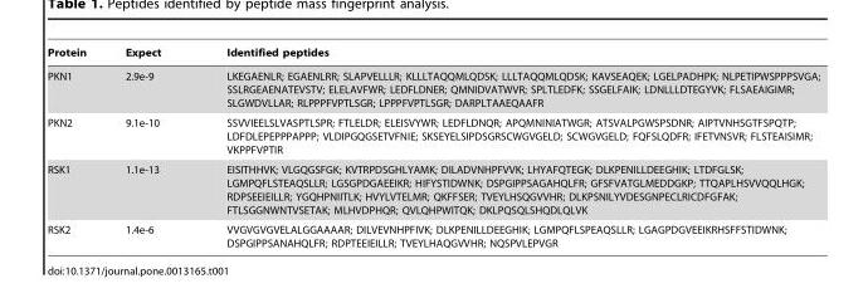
<table><thead><tr><td>Protein</td><td>Expect</td><td>Identified peptides</td></tr></thead><tbody><tr><td>PKN1</td><td>2.9e-9</td><td>LKEGAENLR; EGAENLRR; SLAPVELLLR; KLLLTAQQMLQDSK; LLLTAQQMLQDSK; KAVSEAQEK; LGELPADHPK; NLPETIPWSPPPSVGA; SSLRGEAENATEVSTV; ELELAVFWR; LEDFLDNER; QMNIDVATWVR; SPLTLEDFK; SSGELFAIK; LDNLLLDTEGYVK; FLSAEAIGIMR; SLGWDVLLAR; RLPPPFVPTLSGR; LPPPFVPTLSGR; DARPLTAAEQAAFR</td></tr><tr><td>PKN2</td><td>9.1e-10</td><td>SSVVIEELSLVASPTLSPR; FTLELDR; ELEISVYWR; LEDFLDNQR; APQMNINIATWGR; ATSVALPGWSPSDNR; AIPTVNHSGTFSPQTP; LDFDLEPEPPPAPPP; VLDIPGQGSETVFNIE; SKSEYELSIPDSGRSCWGVGELD; SCWGVGELD; FQFSLQDFR; IFETVNSVR; FLSTEAISIMR; VKPPFVPTIR</td></tr><tr><td>RSK1</td><td>1.1e-13</td><td>EISITHHVK; VLGQGSFGK; KVTRPDSGHLYAMK; DILADVNHPFVVK; LHYAFQTEGK; DLKPENILLDEEGHIK; LTDFGLSK; LGMPQFLSTEAQSLLR; LGSGPDGAEEIKR; HIFYSTIDWNK; DSPGIPPSAGAHQLFR; GFSFVATGLMEDDGKP; TTQAPLHSVVQQLHGK; RDPSEEIEILLR; YGQHPNIITLK; HVYLVTELMR; QKFFSER; TVEYLHSQGVVHR; DLKPSNILYVDESGNPECLRICDFGFAK; FTLSGGNWNTVSETAK; MLHVDPHQR; QVLQHPWITQK; DKLPQSQLSHQDLQLVK</td></tr><tr><td>RSK2</td><td>1.4e-6</td><td>VVGVGVGVELALGGAAAAR; DILVEVNHPFIVK; DLKPENILLDEEGHIK; LGMPQFLSPEAQSLLR; LGAGPDGVEEIKRHSFFSTIDWNK; DSPGIPPSANAHQLFR; RDPTEEIEILLR; TVEYLHAQGVVHR; NQSPVLEPVGR</td></tr></tbody></table>